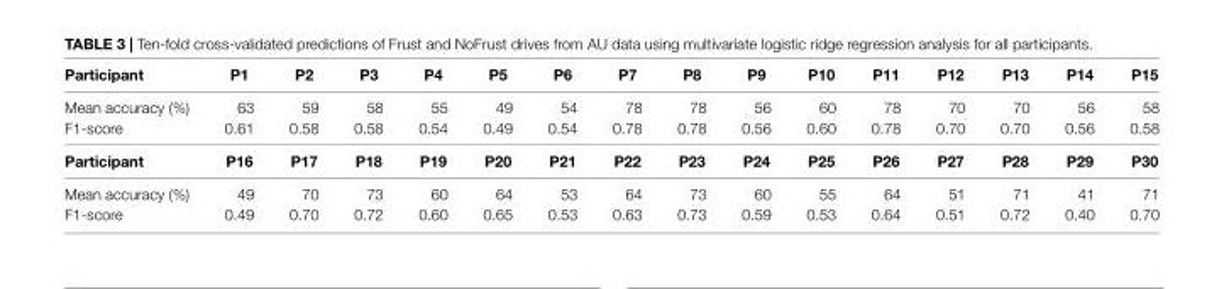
<table><thead><tr><td>Participant</td><td>P1</td><td>P2</td><td>P3</td><td>P4</td><td>P5</td><td>P6</td><td>P7</td><td>P8</td><td>P9</td><td>P10</td><td>P11</td><td>P12</td><td>P13</td><td>P14</td><td>P15</td></tr></thead><tbody><tr><td>Mean accuracy (%)</td><td>63</td><td>59</td><td>58</td><td>55</td><td>49</td><td>54</td><td>78</td><td>78</td><td>56</td><td>60</td><td>78</td><td>70</td><td>70</td><td>56</td><td>58</td></tr><tr><td>F1-score</td><td>0.61</td><td>0.58</td><td>0.58</td><td>0.54</td><td>0.49</td><td>0.54</td><td>0.78</td><td>0.78</td><td>0.56</td><td>0.60</td><td>0.78</td><td>0.70</td><td>0.70</td><td>0.56</td><td>0.58</td></tr><tr><td>Participant</td><td>P16</td><td>P17</td><td>P18</td><td>P19</td><td>P20</td><td>P21</td><td>P22</td><td>P23</td><td>P24</td><td>P25</td><td>P26</td><td>P27</td><td>P28</td><td>P29</td><td>P30</td></tr><tr><td>Mean accuracy (%)</td><td>49</td><td>70</td><td>73</td><td>60</td><td>64</td><td>53</td><td>64</td><td>73</td><td>60</td><td>55</td><td>64</td><td>51</td><td>71</td><td>41</td><td>71</td></tr><tr><td>F1-score</td><td>0.49</td><td>0.70</td><td>0.72</td><td>0.60</td><td>0.65</td><td>0.53</td><td>0.63</td><td>0.73</td><td>0.59</td><td>0.53</td><td>0.64</td><td>0.51</td><td>0.72</td><td>0.40</td><td>0.70</td></tr></tbody></table>